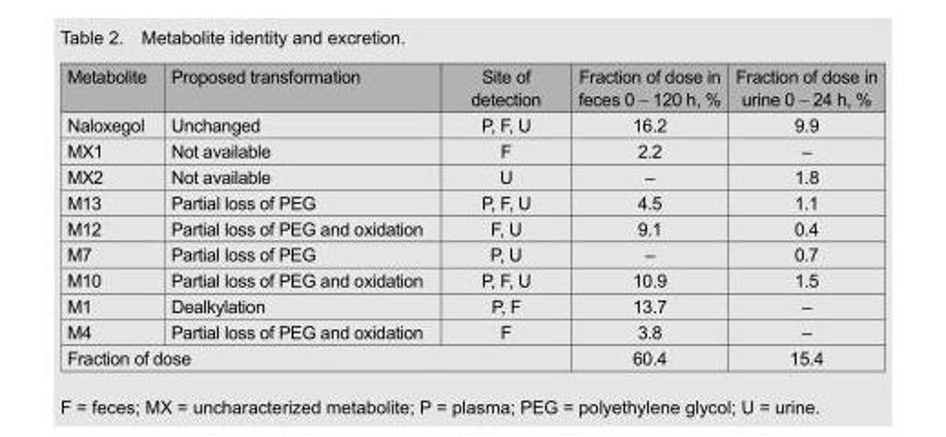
<table><thead><tr><td>Metabolite</td><td>Proposed transformation</td><td>Site of detection</td><td>Fraction of dose in feces 0 - 120 h, %</td><td>Fraction of dose in urine 0 - 24 h, %</td></tr></thead><tbody><tr><td>Naloxegol</td><td>Unchanged</td><td>P, F, U</td><td>16.2</td><td>9.9</td></tr><tr><td>MX1</td><td>Not available</td><td>F</td><td>2.2</td><td>–</td></tr><tr><td>MX2</td><td>Not available</td><td>U</td><td>–</td><td>1.8</td></tr><tr><td>M13</td><td>Partial loss of PEG</td><td>P, F, U</td><td>4.5</td><td>1.1</td></tr><tr><td>M12</td><td>Partial loss of PEG and oxidation</td><td>F, U</td><td>9.1</td><td>0.4</td></tr><tr><td>M7</td><td>Partial loss of PEG</td><td>P, U</td><td>–</td><td>0.7</td></tr><tr><td>M10</td><td>Partial loss of PEG and oxidation</td><td>P, F, U</td><td>10.9</td><td>1.5</td></tr><tr><td>M1</td><td>Dealkylation</td><td>P, F</td><td>13.7</td><td>–</td></tr><tr><td>M4</td><td>Partial loss of PEG and oxidation</td><td>F</td><td>3.8</td><td>–</td></tr><tr><td colspan="3">Fraction of dose</td><td>60.4</td><td>15.4</td></tr></tbody></table>